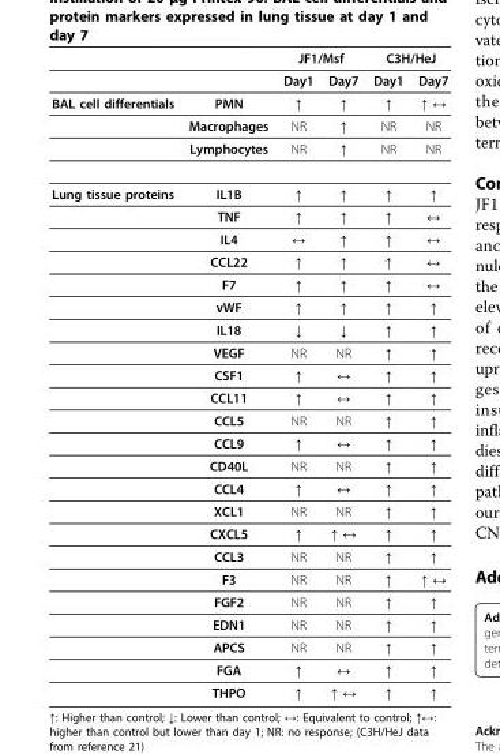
<table><thead><tr><td rowspan="2"></td><td rowspan="2"></td><td colspan="2">JF1/Msf</td><td colspan="2">C3H/HeJ</td></tr><tr><td>Day1</td><td>Day7</td><td>Day1</td><td>Day7</td></tr></thead><tbody><tr><td rowspan="3">BAL cell differentials</td><td>PMN</td><td>↑</td><td>↑</td><td>↑</td><td>↑ ↔</td></tr><tr><td>Macrophages</td><td>NR</td><td>↑</td><td>NR</td><td>NR</td></tr><tr><td>Lymphocytes</td><td>NR</td><td>↑</td><td>NR</td><td>NR</td></tr><tr><td rowspan="23">Lung tissue proteins</td><td>IL1B</td><td>↑</td><td>↑</td><td>↑</td><td>↑</td></tr><tr><td>TNF</td><td>↑</td><td>↑</td><td>↑</td><td>↔</td></tr><tr><td>IL4</td><td>↔</td><td>↑</td><td>↑</td><td>↔</td></tr><tr><td>CCL22</td><td>↑</td><td>↑</td><td>↑</td><td>↔</td></tr><tr><td>F7</td><td>↑</td><td>↑</td><td>↑</td><td>↔</td></tr><tr><td>vWF</td><td>↑</td><td>↑</td><td>↑</td><td>↑</td></tr><tr><td>IL18</td><td>↓</td><td>↓</td><td>↑</td><td>↑</td></tr><tr><td>VEGF</td><td>NR</td><td>NR</td><td>↑</td><td>↑</td></tr><tr><td>CSF1</td><td>↑</td><td>↔</td><td>↑</td><td>↑</td></tr><tr><td>CCL11</td><td>↑</td><td>↔</td><td>↑</td><td>↑</td></tr><tr><td>CCL5</td><td>NR</td><td>NR</td><td>↑</td><td>↑</td></tr><tr><td>CCL9</td><td>↑</td><td>↔</td><td>↑</td><td>↑</td></tr><tr><td>CD40L</td><td>NR</td><td>NR</td><td>↑</td><td>↑</td></tr><tr><td>CCL4</td><td>↑</td><td>↔</td><td>↑</td><td>↑</td></tr><tr><td>XCL1</td><td>NR</td><td>NR</td><td>↑</td><td>↑</td></tr><tr><td>CXCL5</td><td>↑</td><td>↑ ↔</td><td>↑</td><td>↑</td></tr><tr><td>CCL3</td><td>NR</td><td>NR</td><td>↑</td><td>↑</td></tr><tr><td>F3</td><td>NR</td><td>NR</td><td>↑</td><td>↑ ↔</td></tr><tr><td>FGF2</td><td>NR</td><td>NR</td><td>↑</td><td>↑</td></tr><tr><td>EDN1</td><td>NR</td><td>NR</td><td>↑</td><td>↑</td></tr><tr><td>APCS</td><td>NR</td><td>NR</td><td>↑</td><td>↑</td></tr><tr><td>FGA</td><td>↑</td><td>↔</td><td>↑</td><td>↑</td></tr><tr><td>THPO</td><td>↑</td><td>↑ ↔</td><td>↑</td><td>↑</td></tr></tbody></table>